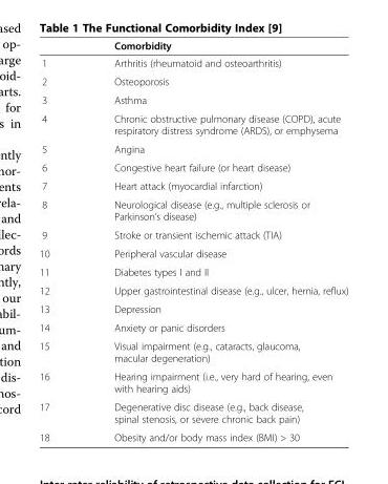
<table><thead><tr><td></td><td>Comorbidity</td></tr></thead><tbody><tr><td>1</td><td>Arthritis (rheumatoid and osteoarthritis)</td></tr><tr><td>2</td><td>Osteoporosis</td></tr><tr><td>3</td><td>Asthma</td></tr><tr><td>4</td><td>Chronic obstructive pulmonary disease (COPD), acute respiratory distress syndrome (ARDS), or emphysema</td></tr><tr><td>5</td><td>Angina</td></tr><tr><td>6</td><td>Congestive heart failure (or heart disease)</td></tr><tr><td>7</td><td>Heart attack (myocardial infarction)</td></tr><tr><td>8</td><td>Neurological disease (e.g., multiple sclerosis or Parkinson’s disease)</td></tr><tr><td>9</td><td>Stroke or transient ischemic attack (TIA)</td></tr><tr><td>10</td><td>Peripheral vascular disease</td></tr><tr><td>11</td><td>Diabetes types I and II</td></tr><tr><td>12</td><td>Upper gastrointestinal disease (e.g., ulcer, hernia, reflux)</td></tr><tr><td>13</td><td>Depression</td></tr><tr><td>14</td><td>Anxiety or panic disorders</td></tr><tr><td>15</td><td>Visual impairment (e.g., cataracts, glaucoma, macular degeneration)</td></tr><tr><td>16</td><td>Hearing impairment (i.e., very hard of hearing, even with hearing aids)</td></tr><tr><td>17</td><td>Degenerative disc disease (e.g., back disease, spinal stenosis, or severe chronic back pain)</td></tr><tr><td>18</td><td>Obesity and/or body mass index (BMI) &gt; 30</td></tr></tbody></table>